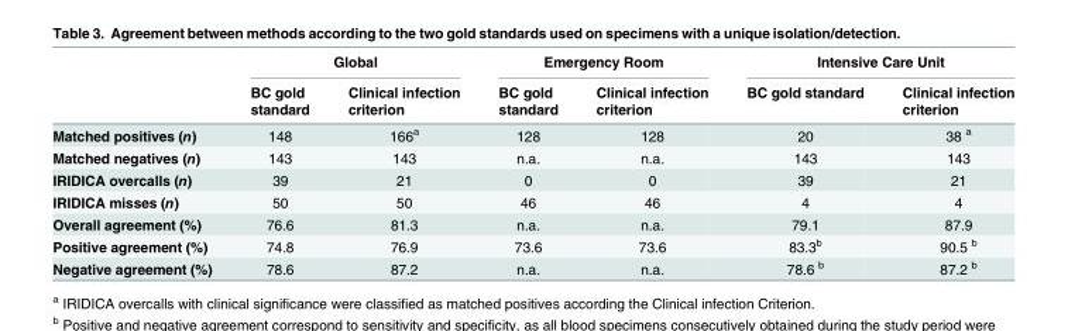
<table><thead><tr><td rowspan="2"></td><td colspan="2">Global</td><td colspan="2">Emergency Room</td><td colspan="2">Intensive Care Unit</td></tr><tr><td>BC gold standard</td><td>Clinical infection criterion</td><td>BC gold standard</td><td>Clinical infection criterion</td><td>BC gold standard</td><td>Clinical infection criterion</td></tr></thead><tbody><tr><td>Matched positives (n)</td><td>148</td><td>166<sup>a</sup></td><td>128</td><td>128</td><td>20</td><td>38 <sup>a</sup></td></tr><tr><td>Matched negatives (n)</td><td>143</td><td>143</td><td>n.a.</td><td>n.a.</td><td>143</td><td>143</td></tr><tr><td>IRIDICA overcalls (n)</td><td>39</td><td>21</td><td>0</td><td>0</td><td>39</td><td>21</td></tr><tr><td>IRIDICA misses (n)</td><td>50</td><td>50</td><td>46</td><td>46</td><td>4</td><td>4</td></tr><tr><td>Overall agreement (%)</td><td>76.6</td><td>81.3</td><td>n.a.</td><td>n.a.</td><td>79.1</td><td>87.9</td></tr><tr><td>Positive agreement (%)</td><td>74.8</td><td>76.9</td><td>73.6</td><td>73.6</td><td>83.3<sup>b</sup></td><td>90.5 <sup>b</sup></td></tr><tr><td>Negative agreement (%)</td><td>78.6</td><td>87.2</td><td>n.a.</td><td>n.a.</td><td>78.6 <sup>b</sup></td><td>87.2 <sup>b</sup></td></tr></tbody></table>